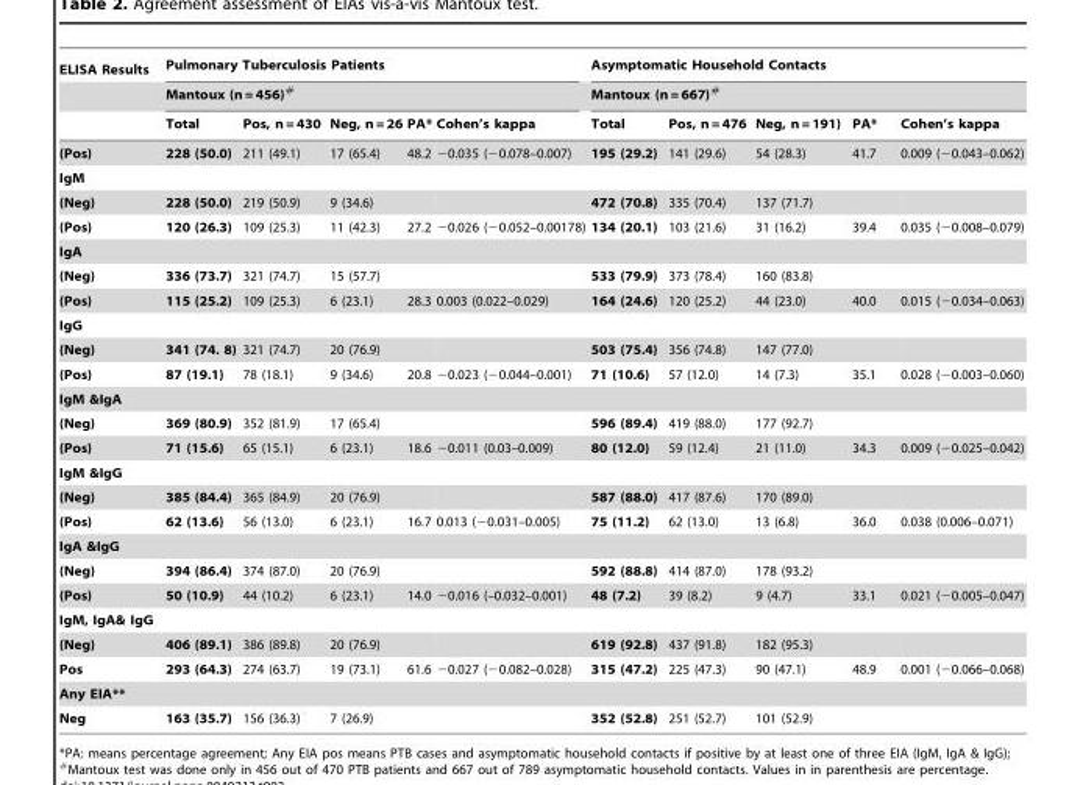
<table><thead><tr><td rowspan="3">ELISA Results</td><td rowspan="2" colspan="5">Pulmonary Tuberculosis Patients Mantoux (n = 456)#</td><td rowspan="2" colspan="5">Asymptomatic Household Contacts Mantoux (n = 667)#</td></tr><tr></tr><tr><td>Total</td><td>Pos, n = 430</td><td>Neg, n = 26</td><td>PA*</td><td>Cohen’s kappa</td><td>Total</td><td>Pos, n = 476</td><td>Neg, n = 191)</td><td>PA*</td><td>Cohen’s kappa</td></tr></thead><tbody><tr><td>(Pos)</td><td>228 (50.0)</td><td>211 (49.1)</td><td>17 (65.4)</td><td>48.2</td><td>−0.035 (−0.078–0.007)</td><td>195 (29.2)</td><td>141 (29.6)</td><td>54 (28.3)</td><td>41.7</td><td>0.009 (−0.043–0.062)</td></tr><tr><td colspan="11">IgM</td></tr><tr><td>(Neg)</td><td>228 (50.0)</td><td>219 (50.9)</td><td>9 (34.6)</td><td></td><td></td><td>472 (70.8)</td><td>335 (70.4)</td><td>137 (71.7)</td><td></td><td></td></tr><tr><td>(Pos)</td><td>120 (26.3)</td><td>109 (25.3)</td><td>11 (42.3)</td><td>27.2</td><td>−0.026 (−0.052–0.00178)</td><td>134 (20.1)</td><td>103 (21.6)</td><td>31 (16.2)</td><td>39.4</td><td>0.035 (−0.008–0.079)</td></tr><tr><td colspan="11">IgA</td></tr><tr><td>(Neg)</td><td>336 (73.7)</td><td>321 (74.7)</td><td>15 (57.7)</td><td></td><td></td><td>533 (79.9)</td><td>373 (78.4)</td><td>160 (83.8)</td><td></td><td></td></tr><tr><td>(Pos)</td><td>115 (25.2)</td><td>109 (25.3)</td><td>6 (23.1)</td><td>28.3</td><td>0.003 (0.022–0.029)</td><td>164 (24.6)</td><td>120 (25.2)</td><td>44 (23.0)</td><td>40.0</td><td>0.015 (−0.034–0.063)</td></tr><tr><td colspan="11">IgG</td></tr><tr><td>(Neg)</td><td>341 (74. 8)</td><td>321 (74.7)</td><td>20 (76.9)</td><td></td><td></td><td>503 (75.4)</td><td>356 (74.8)</td><td>147 (77.0)</td><td></td><td></td></tr><tr><td>(Pos)</td><td>87 (19.1)</td><td>78 (18.1)</td><td>9 (34.6)</td><td>20.8</td><td>−0.023 (−0.044–0.001)</td><td>71 (10.6)</td><td>57 (12.0)</td><td>14 (7.3)</td><td>35.1</td><td>0.028 (−0.003–0.060)</td></tr><tr><td colspan="11">IgM &amp;IgA</td></tr><tr><td>(Neg)</td><td>369 (80.9)</td><td>352 (81.9)</td><td>17 (65.4)</td><td></td><td></td><td>596 (89.4)</td><td>419 (88.0)</td><td>177 (92.7)</td><td></td><td></td></tr><tr><td>(Pos)</td><td>71 (15.6)</td><td>65 (15.1)</td><td>6 (23.1)</td><td>18.6</td><td>−0.011 (0.03–0.009)</td><td>80 (12.0)</td><td>59 (12.4)</td><td>21 (11.0)</td><td>34.3</td><td>0.009 (−0.025–0.042)</td></tr><tr><td colspan="11">IgM &amp;IgG</td></tr><tr><td>(Neg)</td><td>385 (84.4)</td><td>365 (84.9)</td><td>20 (76.9)</td><td></td><td></td><td>587 (88.0)</td><td>417 (87.6)</td><td>170 (89.0)</td><td></td><td></td></tr><tr><td>(Pos)</td><td>62 (13.6)</td><td>56 (13.0)</td><td>6 (23.1)</td><td>16.7</td><td>0.013 (−0.031–0.005)</td><td>75 (11.2)</td><td>62 (13.0)</td><td>13 (6.8)</td><td>36.0</td><td>0.038 (0.006–0.071)</td></tr><tr><td colspan="11">IgA &amp;IgG</td></tr><tr><td>(Neg)</td><td>394 (86.4)</td><td>374 (87.0)</td><td>20 (76.9)</td><td></td><td></td><td>592 (88.8)</td><td>414 (87.0)</td><td>178 (93.2)</td><td></td><td></td></tr><tr><td>(Pos)</td><td>50 (10.9)</td><td>44 (10.2)</td><td>6 (23.1)</td><td>14.0</td><td>−0.016 (–0.032–0.001)</td><td>48 (7.2)</td><td>39 (8.2)</td><td>9 (4.7)</td><td>33.1</td><td>0.021 (−0.005–0.047)</td></tr><tr><td colspan="11">IgM, IgA&amp; IgG</td></tr><tr><td>(Neg)</td><td>406 (89.1)</td><td>386 (89.8)</td><td>20 (76.9)</td><td></td><td></td><td>619 (92.8)</td><td>437 (91.8)</td><td>182 (95.3)</td><td></td><td></td></tr><tr><td>Pos</td><td>293 (64.3)</td><td>274 (63.7)</td><td>19 (73.1)</td><td>61.6</td><td>−0.027 (−0.082–0.028)</td><td>315 (47.2)</td><td>225 (47.3)</td><td>90 (47.1)</td><td>48.9</td><td>0.001 (−0.066–0.068)</td></tr><tr><td colspan="11">Any EIA**</td></tr><tr><td>Neg</td><td>163 (35.7)</td><td>156 (36.3)</td><td>7 (26.9)</td><td></td><td></td><td>352 (52.8)</td><td>251 (52.7)</td><td>101 (52.9)</td><td></td><td></td></tr></tbody></table>